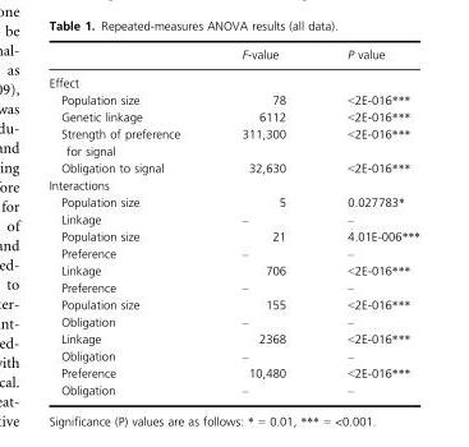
<table><thead><tr><td></td><td>F-value</td><td>P value</td></tr></thead><tbody><tr><td colspan="3">Effect</td></tr><tr><td>Population size</td><td>78</td><td>&lt;2E-016***</td></tr><tr><td>Genetic linkage</td><td>6112</td><td>&lt;2E-016***</td></tr><tr><td>Strength of preference for signal</td><td>311,300</td><td>&lt;2E-016***</td></tr><tr><td>Obligation to signal</td><td>32,630</td><td>&lt;2E-016***</td></tr><tr><td colspan="3">Interactions</td></tr><tr><td>Population size</td><td>5</td><td>0.027783*</td></tr><tr><td>Linkage</td><td>–</td><td>–</td></tr><tr><td>Population size</td><td>21</td><td>4.01E-006***</td></tr><tr><td>Preference</td><td>–</td><td>–</td></tr><tr><td>Linkage</td><td>706</td><td>&lt;2E-016***</td></tr><tr><td>Preference</td><td>–</td><td>–</td></tr><tr><td>Population size</td><td>155</td><td>&lt;2E-016***</td></tr><tr><td>Obligation</td><td>–</td><td>–</td></tr><tr><td>Linkage</td><td>2368</td><td>&lt;2E-016***</td></tr><tr><td>Obligation</td><td>–</td><td>–</td></tr><tr><td>Preference</td><td>10,480</td><td>&lt;2E-016***</td></tr><tr><td>Obligation</td><td>–</td><td>–</td></tr></tbody></table>